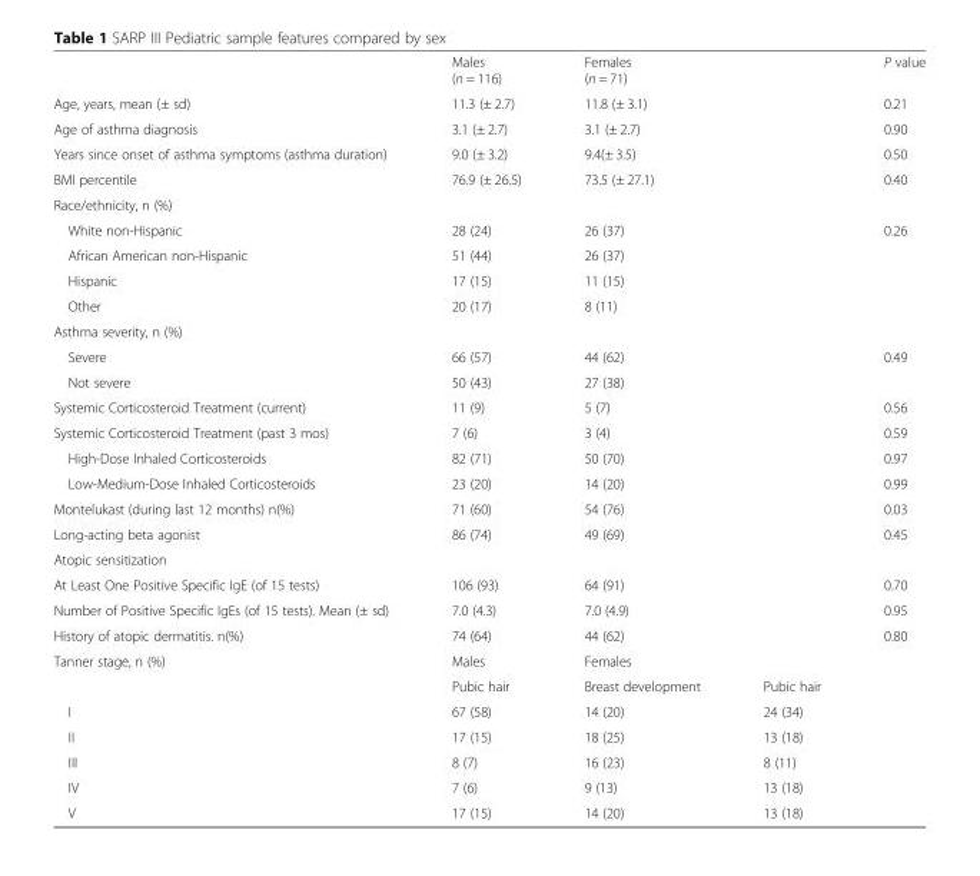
<table><thead><tr><td></td><td>Males (n = 116)</td><td colspan="2">Females (n = 71)</td><td>P value</td></tr></thead><tbody><tr><td>Age, years, mean (± sd)</td><td>11.3 (± 2.7)</td><td colspan="2">11.8 (± 3.1)</td><td>0.21</td></tr><tr><td>Age of asthma diagnosis</td><td>3.1 (± 2.7)</td><td colspan="2">3.1 (± 2.7)</td><td>0.90</td></tr><tr><td>Years since onset of asthma symptoms (asthma duration)</td><td>9.0 (± 3.2)</td><td colspan="2">9.4(± 3.5)</td><td>0.50</td></tr><tr><td>BMI percentile</td><td>76.9 (± 26.5)</td><td colspan="2">73.5 (± 27.1)</td><td>0.40</td></tr><tr><td colspan="5">Race/ethnicity, n (%)</td></tr><tr><td>White non-Hispanic</td><td>28 (24)</td><td colspan="2">26 (37)</td><td rowspan="4">0.26</td></tr><tr><td>African American non-Hispanic</td><td>51 (44)</td><td colspan="2">26 (37)</td></tr><tr><td>Hispanic</td><td>17 (15)</td><td colspan="2">11 (15)</td></tr><tr><td>Other</td><td>20 (17)</td><td colspan="2">8 (11)</td></tr><tr><td colspan="5">Asthma severity, n (%)</td></tr><tr><td>Severe</td><td>66 (57)</td><td colspan="2">44 (62)</td><td rowspan="2">0.49</td></tr><tr><td>Not severe</td><td>50 (43)</td><td colspan="2">27 (38)</td></tr><tr><td>Systemic Corticosteroid Treatment (current)</td><td>11 (9)</td><td colspan="2">5 (7)</td><td>0.56</td></tr><tr><td>Systemic Corticosteroid Treatment (past 3 mos)</td><td>7 (6)</td><td colspan="2">3 (4)</td><td>0.59</td></tr><tr><td>High-Dose Inhaled Corticosteroids</td><td>82 (71)</td><td colspan="2">50 (70)</td><td>0.97</td></tr><tr><td>Low-Medium-Dose Inhaled Corticosteroids</td><td>23 (20)</td><td colspan="2">14 (20)</td><td>0.99</td></tr><tr><td>Montelukast (during last 12 months) n(%)</td><td>71 (60)</td><td colspan="2">54 (76)</td><td>0.03</td></tr><tr><td>Long-acting beta agonist</td><td>86 (74)</td><td colspan="2">49 (69)</td><td>0.45</td></tr><tr><td colspan="5">Atopic sensitization</td></tr><tr><td>At Least One Positive Specific IgE (of 15 tests)</td><td>106 (93)</td><td colspan="2">64 (91)</td><td>0.70</td></tr><tr><td>Number of Positive Specific IgEs (of 15 tests). Mean (± sd)</td><td>7.0 (4.3)</td><td colspan="2">7.0 (4.9)</td><td>0.95</td></tr><tr><td>History of atopic dermatitis. n(%)</td><td>74 (64)</td><td colspan="2">44 (62)</td><td>0.80</td></tr><tr><td rowspan="2">Tanner stage, n (%)</td><td>Males</td><td colspan="2">Females</td><td></td></tr><tr><td>Pubic hair</td><td>Breast development</td><td>Pubic hair</td><td></td></tr><tr><td>I</td><td>67 (58)</td><td>14 (20)</td><td>24 (34)</td><td></td></tr><tr><td>II</td><td>17 (15)</td><td>18 (25)</td><td>13 (18)</td><td></td></tr><tr><td>III</td><td>8 (7)</td><td>16 (23)</td><td>8 (11)</td><td></td></tr><tr><td>IV</td><td>7 (6)</td><td>9 (13)</td><td>13 (18)</td><td></td></tr><tr><td>V</td><td>17 (15)</td><td>14 (20)</td><td>13 (18)</td><td></td></tr></tbody></table>